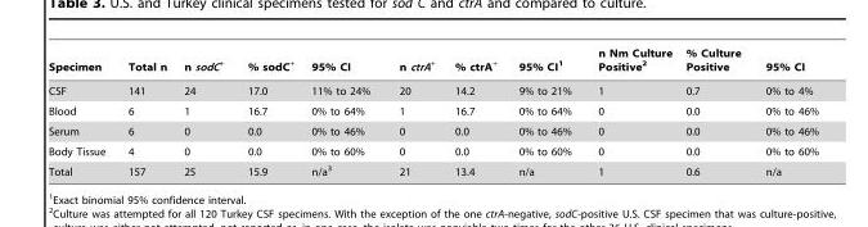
<table><thead><tr><td>Specimen</td><td>Total n</td><td>n sodC<sup>+</sup></td><td>% sodC<sup>+</sup></td><td>95% CI</td><td>n ctrA<sup>+</sup></td><td>% ctrA<sup>+</sup></td><td>95% CI<sup>1</sup></td><td>n Nm Culture Positive<sup>2</sup></td><td>% Culture Positive</td><td>95% CI</td></tr></thead><tbody><tr><td>CSF</td><td>141</td><td>24</td><td>17.0</td><td>11% to 24%</td><td>20</td><td>14.2</td><td>9% to 21%</td><td>1</td><td>0.7</td><td>0% to 4%</td></tr><tr><td>Blood</td><td>6</td><td>1</td><td>16.7</td><td>0% to 64%</td><td>1</td><td>16.7</td><td>0% to 64%</td><td>0</td><td>0.0</td><td>0% to 46%</td></tr><tr><td>Serum</td><td>6</td><td>0</td><td>0.0</td><td>0% to 46%</td><td>0</td><td>0.0</td><td>0% to 46%</td><td>0</td><td>0.0</td><td>0% to 46%</td></tr><tr><td>Body Tissue</td><td>4</td><td>0</td><td>0.0</td><td>0% to 60%</td><td>0</td><td>0.0</td><td>0% to 60%</td><td>0</td><td>0.0</td><td>0% to 60%</td></tr><tr><td>Total</td><td>157</td><td>25</td><td>15.9</td><td>n/a<sup>3</sup></td><td>21</td><td>13.4</td><td>n/a</td><td>1</td><td>0.6</td><td>n/a</td></tr></tbody></table>